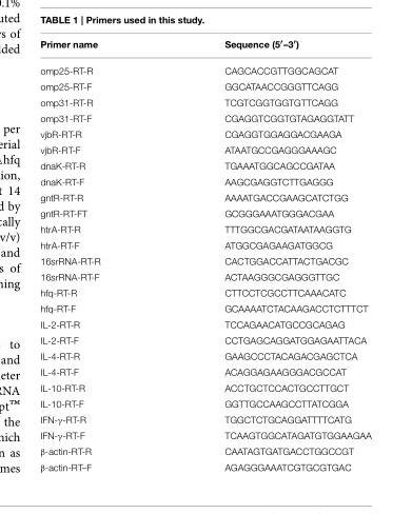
<table><thead><tr><td>Primer name</td><td>Sequence (5′–3′)</td></tr></thead><tbody><tr><td>omp25-RT-R</td><td>CAGCACCGTTGGCAGCAT</td></tr><tr><td>omp25-RT-F</td><td>GGCATAACCGGGTTCAGG</td></tr><tr><td>omp31-RT-R</td><td>TCGTCGGTGGTGTTCAGG</td></tr><tr><td>omp31-RT-F</td><td>CGAGGTCGGTGTAGAGGTATT</td></tr><tr><td>vjbR-RT-R</td><td>CGAGGTGGAGGACGAAGA</td></tr><tr><td>vjbR-RT-F</td><td>ATAATGCCGAGGGAAAGC</td></tr><tr><td>dnaK-RT-R</td><td>TGAAATGGCAGCCGATAA</td></tr><tr><td>dnaK-RT-F</td><td>AAGCGAGGTCTTGAGGG</td></tr><tr><td>gntR-RT-R</td><td>AAAATGACCGAAGCATCTGG</td></tr><tr><td>gntR-RT-FT</td><td>GCGGGAAATGGGACGAA</td></tr><tr><td>htrA-RT-R</td><td>TTTGGCGACGATAATAAGGTG</td></tr><tr><td>htrA-RT-F</td><td>ATGGCGAGAAGATGGCG</td></tr><tr><td>16srRNA-RT-R</td><td>CACTGGACCATTACTGACGC</td></tr><tr><td>16srRNA-RT-F</td><td>ACTAAGGGCGAGGGTTGC</td></tr><tr><td>hfq-RT-R</td><td>CTTCCTCGCCTTCAAACATC</td></tr><tr><td>hfq-RT-F</td><td>GCAAAATCTACAAGACCTCTTTCT</td></tr><tr><td>IL-2-RT-R</td><td>TCCAGAACATGCCGCAGAG</td></tr><tr><td>IL-2-RT-F</td><td>CCTGAGCAGGATGGAGAATTACA</td></tr><tr><td>IL-4-RT-R</td><td>GAAGCCCTACAGACGAGCTCA</td></tr><tr><td>IL-4-RT-F</td><td>ACAGGAGAAGGGACGCCAT</td></tr><tr><td>IL-10-RT-R</td><td>ACCTGCTCCACTGCCTTGCT</td></tr><tr><td>IL-10-RT-F</td><td>GGTTGCCAAGCCTTATCGGA</td></tr><tr><td>IFN-γ-RT-R</td><td>TGGCTCTGCAGGATTTTCATG</td></tr><tr><td>IFN-γ-RT-F</td><td>TCAAGTGGCATAGATGTGGAAGAA</td></tr><tr><td>β-actin-RT-R</td><td>CAATAGTGATGACCTGGCCGT</td></tr><tr><td>β-actin-RT–F</td><td>AGAGGGAAATCGTGCGTGAC</td></tr></tbody></table>